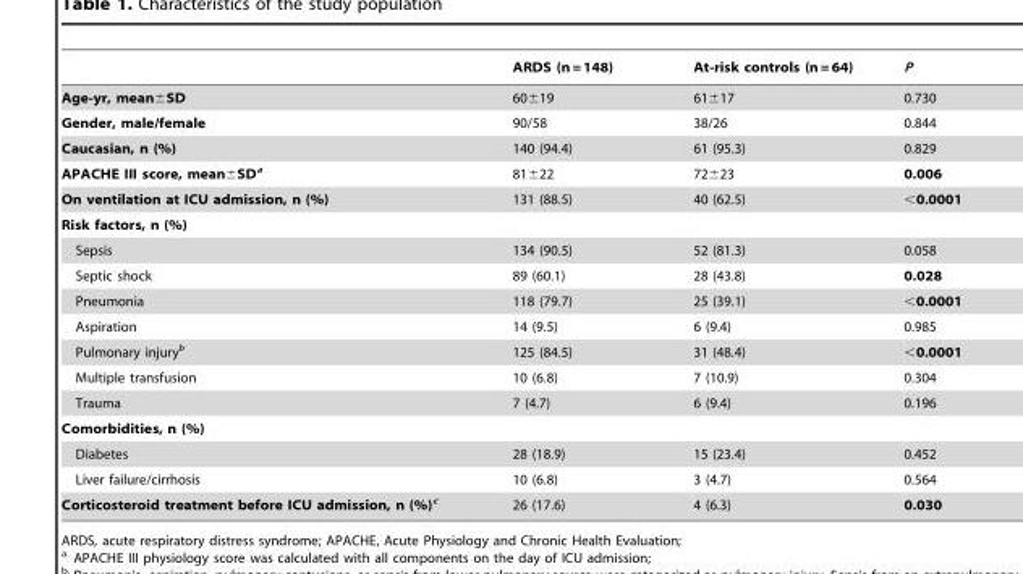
<table><thead><tr><td></td><td>ARDS (n = 148)</td><td>At-risk controls (n = 64)</td><td>P</td></tr></thead><tbody><tr><td>Age-yr, mean±SD</td><td>60±19</td><td>61±17</td><td>0.730</td></tr><tr><td>Gender, male/female</td><td>90/58</td><td>38/26</td><td>0.844</td></tr><tr><td>Caucasian, n (%)</td><td>140 (94.4)</td><td>61 (95.3)</td><td>0.829</td></tr><tr><td>APACHE III score, mean±SDa</td><td>81±22</td><td>72±23</td><td>0.006</td></tr><tr><td>On ventilation at ICU admission, n (%)</td><td>131 (88.5)</td><td>40 (62.5)</td><td>&lt;0.0001</td></tr><tr><td colspan="4">Risk factors, n (%)</td></tr><tr><td>Sepsis</td><td>134 (90.5)</td><td>52 (81.3)</td><td>0.058</td></tr><tr><td>Septic shock</td><td>89 (60.1)</td><td>28 (43.8)</td><td>0.028</td></tr><tr><td>Pneumonia</td><td>118 (79.7)</td><td>25 (39.1)</td><td>&lt;0.0001</td></tr><tr><td>Aspiration</td><td>14 (9.5)</td><td>6 (9.4)</td><td>0.985</td></tr><tr><td>Pulmonary injury<sup>b</sup></td><td>125 (84.5)</td><td>31 (48.4)</td><td>&lt;0.0001</td></tr><tr><td>Multiple transfusion</td><td>10 (6.8)</td><td>7 (10.9)</td><td>0.304</td></tr><tr><td>Trauma</td><td>7 (4.7)</td><td>6 (9.4)</td><td>0.196</td></tr><tr><td colspan="4">Comorbidities, n (%)</td></tr><tr><td>Diabetes</td><td>28 (18.9)</td><td>15 (23.4)</td><td>0.452</td></tr><tr><td>Liver failure/cirrhosis</td><td>10 (6.8)</td><td>3 (4.7)</td><td>0.564</td></tr><tr><td>Corticosteroid treatment before ICU admission, n (%)c</td><td>26 (17.6)</td><td>4 (6.3)</td><td>0.030</td></tr></tbody></table>